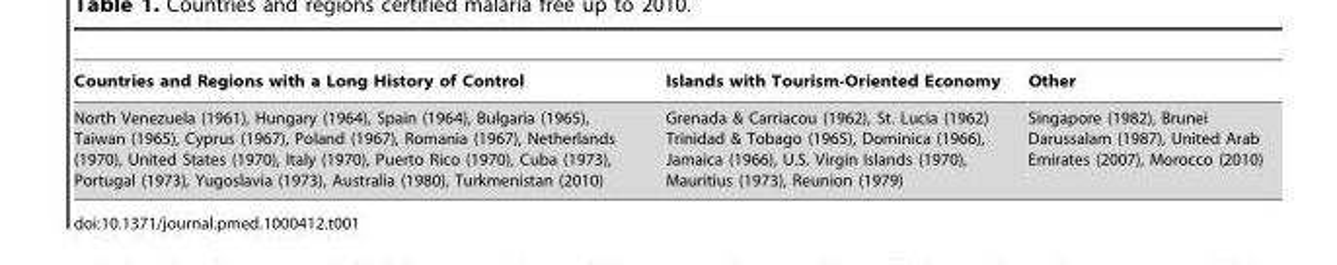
<table><thead><tr><td>Countries and Regions with a Long History of Control</td><td>Islands with Tourism-Oriented Economy</td><td>Other</td></tr></thead><tbody><tr><td>North Venezuela (1961), Hungary (1964), Spain (1964), Bulgaria (1965), Taiwan (1965), Cyprus (1967), Poland (1967), Romania (1967), Netherlands (1970), United States (1970), Italy (1970), Puerto Rico (1970), Cuba (1973), Portugal (1973), Yugoslavia (1973), Australia (1980), Turkmenistan (2010)</td><td>Grenada &amp; Carriacou (1962), St. Lucia (1962) Trinidad &amp; Tobago (1965), Dominica (1966), Jamaica (1966), U.S. Virgin Islands (1970), Mauritius (1973), Reunion (1979)</td><td>Singapore (1982), Brunei Darussalam (1987), United Arab Emirates (2007), Morocco (2010)</td></tr></tbody></table>